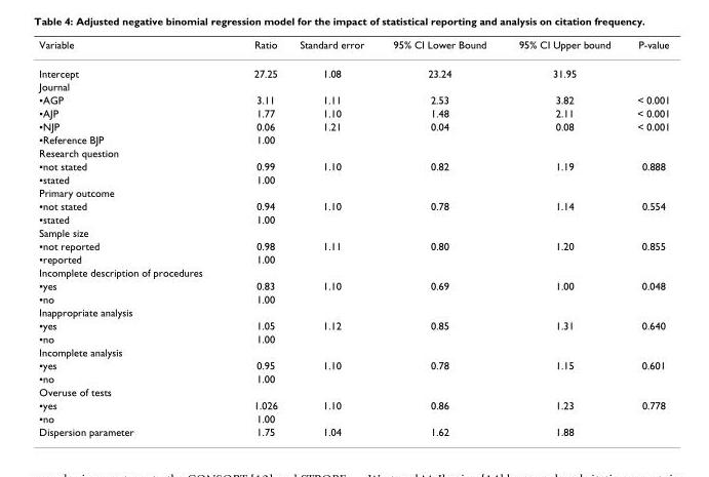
<table><thead><tr><td>Variable</td><td>Ratio</td><td>Standard error</td><td>95% CI Lower Bound</td><td>95% CI Upper bound</td><td>P-value</td></tr></thead><tbody><tr><td>Intercept</td><td>27.25</td><td>1.08</td><td>23.24</td><td>31.95</td><td></td></tr><tr><td colspan="6">Journal</td></tr><tr><td>▪AGP</td><td>3.11</td><td>1.11</td><td>2.53</td><td>3.82</td><td>&lt; 0.001</td></tr><tr><td>▪AJP</td><td>1.77</td><td>1.10</td><td>1.48</td><td>2.11</td><td>&lt; 0.001</td></tr><tr><td>▪NJP</td><td>0.06</td><td>1.21</td><td>0.04</td><td>0.08</td><td>&lt; 0.001</td></tr><tr><td>▪Reference BJP</td><td>1.00</td><td></td><td></td><td></td><td></td></tr><tr><td colspan="6">Research question</td></tr><tr><td>▪not stated</td><td>0.99</td><td>1.10</td><td>0.82</td><td>1.19</td><td>0.888</td></tr><tr><td>▪stated</td><td>1.00</td><td></td><td></td><td></td><td></td></tr><tr><td colspan="6">Primary outcome</td></tr><tr><td>▪not stated</td><td>0.94</td><td>1.10</td><td>0.78</td><td>1.14</td><td>0.554</td></tr><tr><td>▪stated</td><td>1.00</td><td></td><td></td><td></td><td></td></tr><tr><td colspan="6">Sample size</td></tr><tr><td>▪not reported</td><td>0.98</td><td>1.11</td><td>0.80</td><td>1.20</td><td>0.855</td></tr><tr><td>▪reported</td><td>1.00</td><td></td><td></td><td></td><td></td></tr><tr><td colspan="6">Incomplete description of procedures</td></tr><tr><td>▪yes</td><td>0.83</td><td>1.10</td><td>0.69</td><td>1.00</td><td>0.048</td></tr><tr><td>▪no</td><td>1.00</td><td></td><td></td><td></td><td></td></tr><tr><td colspan="6">Inappropriate analysis</td></tr><tr><td>▪yes</td><td>1.05</td><td>1.12</td><td>0.85</td><td>1.31</td><td>0.640</td></tr><tr><td>▪no</td><td>1.00</td><td></td><td></td><td></td><td></td></tr><tr><td colspan="6">Incomplete analysis</td></tr><tr><td>▪yes</td><td>0.95</td><td>1.10</td><td>0.78</td><td>1.15</td><td>0.601</td></tr><tr><td>▪no</td><td>1.00</td><td></td><td></td><td></td><td></td></tr><tr><td colspan="6">Overuse of tests</td></tr><tr><td>▪yes</td><td>1.026</td><td>1.10</td><td>0.86</td><td>1.23</td><td>0.778</td></tr><tr><td>▪no</td><td>1.00</td><td></td><td></td><td></td><td></td></tr><tr><td>Dispersion parameter</td><td>1.75</td><td>1.04</td><td>1.62</td><td>1.88</td><td></td></tr></tbody></table>